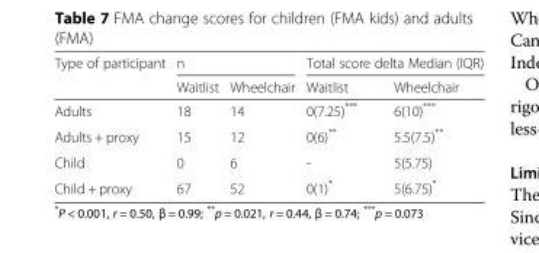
<table><thead><tr><td rowspan="2">Type of participant</td><td colspan="2">n</td><td colspan="2">Total score delta Median (IQR)</td></tr><tr><td>Waitlist</td><td>Wheelchair</td><td>Waitlist</td><td>Wheelchair</td></tr></thead><tbody><tr><td>Adults</td><td>18</td><td>14</td><td>0(7.25)***</td><td>6(10)***</td></tr><tr><td>Adults + proxy</td><td>15</td><td>12</td><td>0(6)**</td><td>5.5(7.5)**</td></tr><tr><td>Child</td><td>0</td><td>6</td><td>-</td><td>5(5.75)</td></tr><tr><td>Child + proxy</td><td>67</td><td>52</td><td>0(1)*</td><td>5(6.75)*</td></tr></tbody></table>